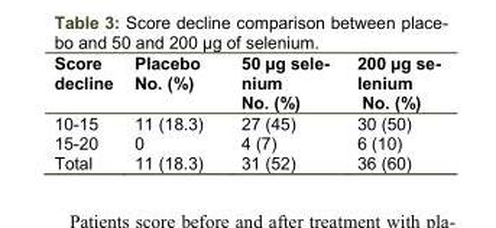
<table><thead><tr><td>Score decline</td><td>Placebo No. (%)</td><td>50 µg sele- nium No. (%)</td><td>200 µg se- lenium No. (%)</td></tr></thead><tbody><tr><td>10-15</td><td>11 (18.3)</td><td>27 (45)</td><td>30 (50)</td></tr><tr><td>15-20</td><td>0</td><td>4 (7)</td><td>6 (10)</td></tr><tr><td>Total</td><td>11 (18.3)</td><td>31 (52)</td><td>36 (60)</td></tr></tbody></table>